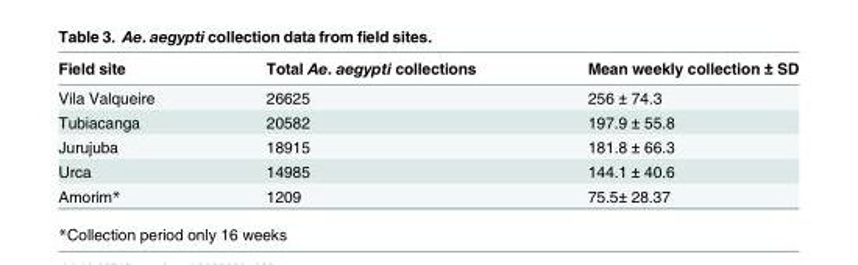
<table><thead><tr><td>Field site</td><td>Total Ae. aegypti collections</td><td>Mean weekly collection ± SD</td></tr></thead><tbody><tr><td>Vila Valqueire</td><td>26625</td><td>256 ± 74.3</td></tr><tr><td>Tubiacanga</td><td>20582</td><td>197.9 ± 55.8</td></tr><tr><td>Jurujuba</td><td>18915</td><td>181.8 ± 66.3</td></tr><tr><td>Urca</td><td>14985</td><td>144.1 ± 40.6</td></tr><tr><td>Amorim*</td><td>1209</td><td>75.5± 28.37</td></tr></tbody></table>